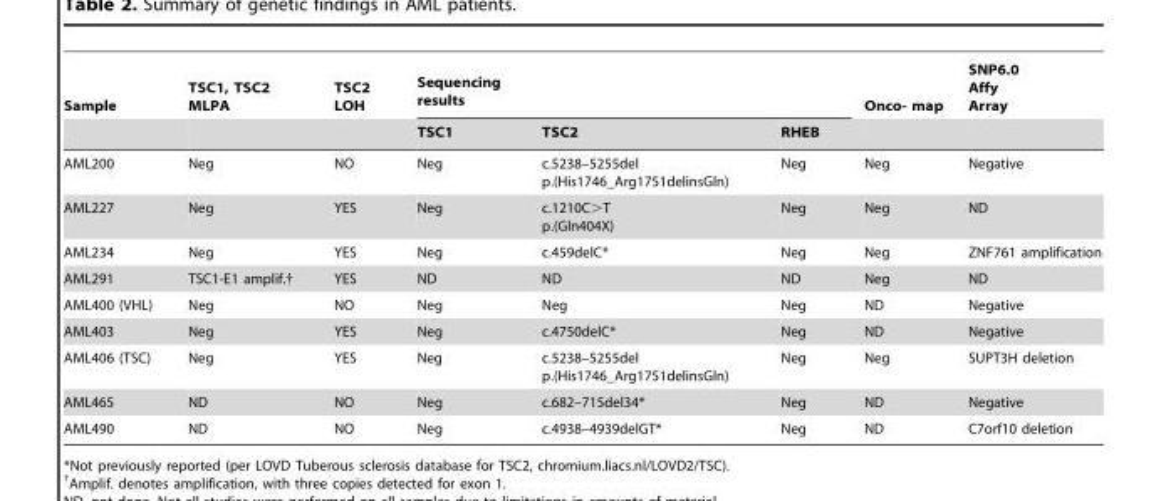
<table><thead><tr><td rowspan="2">Sample</td><td rowspan="2">TSC1, TSC2 MLPA</td><td rowspan="2">TSC2 LOH</td><td colspan="3">Sequencing results</td><td rowspan="2">Onco- map</td><td rowspan="2">SNP6.0 Affy Array</td></tr><tr><td>TSC1</td><td>TSC2</td><td>RHEB</td></tr></thead><tbody><tr><td>AML200</td><td>Neg</td><td>NO</td><td>Neg</td><td>c.5238–5255del p.(His1746_Arg1751delinsGln)</td><td>Neg</td><td>Neg</td><td>Negative</td></tr><tr><td>AML227</td><td>Neg</td><td>YES</td><td>Neg</td><td>c.1210C&gt;T p.(Gln404X)</td><td>Neg</td><td>Neg</td><td>ND</td></tr><tr><td>AML234</td><td>Neg</td><td>YES</td><td>Neg</td><td>c.459delC*</td><td>Neg</td><td>Neg</td><td>ZNF761 amplification</td></tr><tr><td>AML291</td><td>TSC1-E1 amplif.†</td><td>YES</td><td>ND</td><td>ND</td><td>ND</td><td>Neg</td><td>ND</td></tr><tr><td>AML400 (VHL)</td><td>Neg</td><td>NO</td><td>Neg</td><td>Neg</td><td>Neg</td><td>ND</td><td>Negative</td></tr><tr><td>AML403</td><td>Neg</td><td>YES</td><td>Neg</td><td>c.4750delC*</td><td>Neg</td><td>ND</td><td>Negative</td></tr><tr><td>AML406 (TSC)</td><td>Neg</td><td>YES</td><td>Neg</td><td>c.5238–5255del p.(His1746_Arg1751delinsGln)</td><td>Neg</td><td>Neg</td><td>SUPT3H deletion</td></tr><tr><td>AML465</td><td>ND</td><td>NO</td><td>Neg</td><td>c.682–715del34*</td><td>Neg</td><td>ND</td><td>Negative</td></tr><tr><td>AML490</td><td>ND</td><td>NO</td><td>Neg</td><td>c.4938–4939delGT*</td><td>Neg</td><td>ND</td><td>C7orf10 deletion</td></tr></tbody></table>